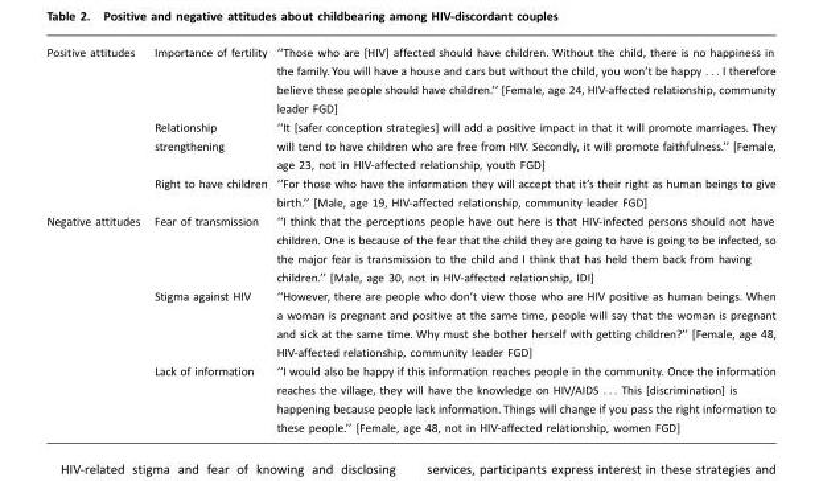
<table><tbody><tr><td rowspan="3">Positive attitudes</td><td>Importance of fertility</td><td>‘‘Those who are [HIV] affected should have children. Without the child, there is no happiness in the family. You will have a house and cars but without the child, you won’t be happy . . . I therefore believe these people should have children.’’ [Female, age 24, HIV-affected relationship, community leader FGD]</td></tr><tr><td>Relationship strengthening</td><td>‘‘It [safer conception strategies] will add a positive impact in that it will promote marriages. They will tend to have children who are free from HIV. Secondly, it will promote faithfulness.’’ [Female, age 23, not in HIV-affected relationship, youth FGD]</td></tr><tr><td>Right to have children</td><td>‘‘For those who have the information they will accept that it’s their right as human beings to give birth.’’ [Male, age 19, HIV-affected relationship, community leader FGD]</td></tr><tr><td rowspan="3">Negative attitudes</td><td>Fear of transmission</td><td>‘‘I think that the perceptions people have out here is that HIV-infected persons should not have children. One is because of the fear that the child they are going to have is going to be infected, so the major fear is transmission to the child and I think that has held them back from having children.’’ [Male, age 30, not in HIV-affected relationship, IDI]</td></tr><tr><td>Stigma against HIV</td><td>‘‘However, there are people who don’t view those who are HIV positive as human beings. When a woman is pregnant and positive at the same time, people will say that the woman is pregnant and sick at the same time. Why must she bother herself with getting children?’’ [Female, age 48, HIV-affected relationship, community leader FGD]</td></tr><tr><td>Lack of information</td><td>‘‘I would also be happy if this information reaches people in the community. Once the information reaches the village, they will have the knowledge on HIV/AIDS . . . This [discrimination] is happening because people lack information. Things will change if you pass the right information to these people.’’ [Female, age 48, not in HIV-affected relationship, women FGD]</td></tr></tbody></table>